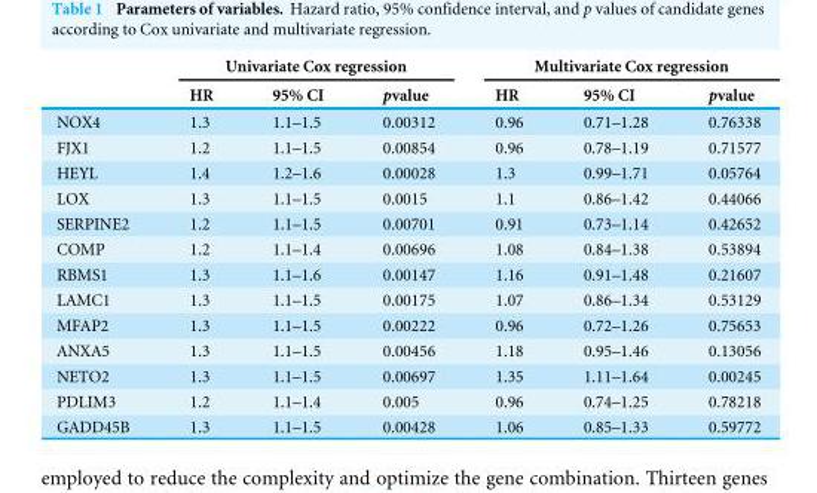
<table><thead><tr><td rowspan="2"></td><td colspan="3">Univariate Cox regression</td><td colspan="3">Multivariate Cox regression</td></tr><tr><td>HR</td><td>95% CI</td><td>pvalue</td><td>HR</td><td>95% CI</td><td>pvalue</td></tr></thead><tbody><tr><td>NOX4</td><td>1.3</td><td>1.1–1.5</td><td>0.00312</td><td>0.96</td><td>0.71–1.28</td><td>0.76338</td></tr><tr><td>FJX1</td><td>1.2</td><td>1.1–1.5</td><td>0.00854</td><td>0.96</td><td>0.78–1.19</td><td>0.71577</td></tr><tr><td>HEYL</td><td>1.4</td><td>1.2–1.6</td><td>0.00028</td><td>1.3</td><td>0.99–1.71</td><td>0.05764</td></tr><tr><td>LOX</td><td>1.3</td><td>1.1–1.5</td><td>0.0015</td><td>1.1</td><td>0.86–1.42</td><td>0.44066</td></tr><tr><td>SERPINE2</td><td>1.2</td><td>1.1–1.5</td><td>0.00701</td><td>0.91</td><td>0.73–1.14</td><td>0.42652</td></tr><tr><td>COMP</td><td>1.2</td><td>1.1–1.4</td><td>0.00696</td><td>1.08</td><td>0.84–1.38</td><td>0.53894</td></tr><tr><td>RBMS1</td><td>1.3</td><td>1.1–1.6</td><td>0.00147</td><td>1.16</td><td>0.91–1.48</td><td>0.21607</td></tr><tr><td>LAMC1</td><td>1.3</td><td>1.1–1.5</td><td>0.00175</td><td>1.07</td><td>0.86–1.34</td><td>0.53129</td></tr><tr><td>MFAP2</td><td>1.3</td><td>1.1–1.5</td><td>0.00222</td><td>0.96</td><td>0.72–1.26</td><td>0.75653</td></tr><tr><td>ANXA5</td><td>1.3</td><td>1.1–1.5</td><td>0.00456</td><td>1.18</td><td>0.95–1.46</td><td>0.13056</td></tr><tr><td>NETO2</td><td>1.3</td><td>1.1–1.5</td><td>0.00697</td><td>1.35</td><td>1.11–1.64</td><td>0.00245</td></tr><tr><td>PDLIM3</td><td>1.2</td><td>1.1–1.4</td><td>0.005</td><td>0.96</td><td>0.74–1.25</td><td>0.78218</td></tr><tr><td>GADD45B</td><td>1.3</td><td>1.1–1.5</td><td>0.00428</td><td>1.06</td><td>0.85–1.33</td><td>0.59772</td></tr></tbody></table>